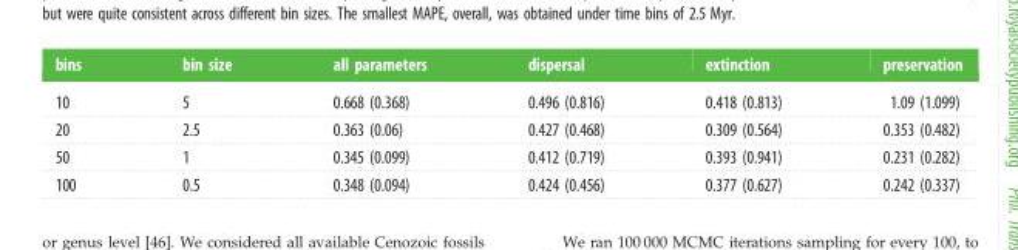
<table><thead><tr><td>bins</td><td>bin size</td><td>all parameters</td><td>dispersal</td><td>extinction</td><td>preservation</td></tr></thead><tbody><tr><td>10</td><td>5</td><td>0.668 (0.368)</td><td>0.496 (0.816)</td><td>0.418 (0.813)</td><td>1.09 (1.099)</td></tr><tr><td>20</td><td>2.5</td><td>0.363 (0.06)</td><td>0.427 (0.468)</td><td>0.309 (0.564)</td><td>0.353 (0.482)</td></tr><tr><td>50</td><td>1</td><td>0.345 (0.099)</td><td>0.412 (0.719)</td><td>0.393 (0.941)</td><td>0.231 (0.282)</td></tr><tr><td>100</td><td>0.5</td><td>0.348 (0.094)</td><td>0.424 (0.456)</td><td>0.377 (0.627)</td><td>0.242 (0.337)</td></tr></tbody></table>